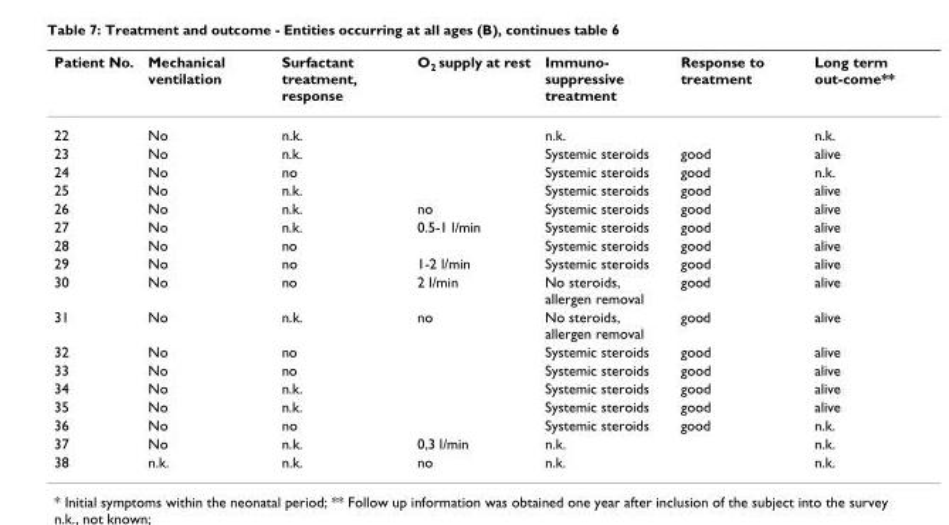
<table><thead><tr><td>Patient No.</td><td>Mechanical ventilation</td><td>Surfactant treatment, response</td><td>O<sub>2</sub> supply at rest</td><td>Immuno- suppressive treatment</td><td>Response to treatment</td><td>Long term out-come**</td></tr></thead><tbody><tr><td>22</td><td>No</td><td>n.k.</td><td></td><td>n.k.</td><td></td><td>n.k.</td></tr><tr><td>23</td><td>No</td><td>n.k.</td><td></td><td>Systemic steroids</td><td>good</td><td>alive</td></tr><tr><td>24</td><td>No</td><td>no</td><td></td><td>Systemic steroids</td><td>good</td><td>n.k.</td></tr><tr><td>25</td><td>No</td><td>n.k.</td><td></td><td>Systemic steroids</td><td>good</td><td>alive</td></tr><tr><td>26</td><td>No</td><td>n.k.</td><td>no</td><td>Systemic steroids</td><td>good</td><td>alive</td></tr><tr><td>27</td><td>No</td><td>n.k.</td><td>0.5-1 l/min</td><td>Systemic steroids</td><td>good</td><td>alive</td></tr><tr><td>28</td><td>No</td><td>no</td><td></td><td>Systemic steroids</td><td>good</td><td>alive</td></tr><tr><td>29</td><td>No</td><td>no</td><td>1-2 l/min</td><td>Systemic steroids</td><td>good</td><td>alive</td></tr><tr><td>30</td><td>No</td><td>no</td><td>2 l/min</td><td>No steroids, allergen removal</td><td>good</td><td>alive</td></tr><tr><td>31</td><td>No</td><td>n.k.</td><td>no</td><td>No steroids, allergen removal</td><td>good</td><td>alive</td></tr><tr><td>32</td><td>No</td><td>no</td><td></td><td>Systemic steroids</td><td>good</td><td>alive</td></tr><tr><td>33</td><td>No</td><td>no</td><td></td><td>Systemic steroids</td><td>good</td><td>alive</td></tr><tr><td>34</td><td>No</td><td>n.k.</td><td></td><td>Systemic steroids</td><td>good</td><td>alive</td></tr><tr><td>35</td><td>No</td><td>n.k.</td><td></td><td>Systemic steroids</td><td>good</td><td>alive</td></tr><tr><td>36</td><td>No</td><td>no</td><td></td><td>Systemic steroids</td><td>good</td><td>n.k.</td></tr><tr><td>37</td><td>No</td><td>n.k.</td><td>0,3 l/min</td><td>n.k.</td><td></td><td>n.k.</td></tr><tr><td>38</td><td>n.k.</td><td>n.k.</td><td>no</td><td>n.k.</td><td></td><td>n.k.</td></tr></tbody></table>